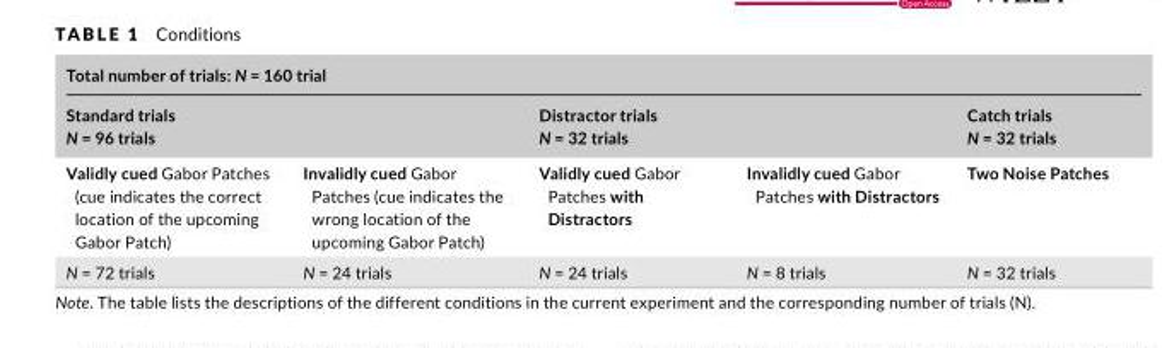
<table><thead><tr><td colspan="5">Total number of trials: N = 160 trial</td></tr><tr><td colspan="2">Standard trials N = 96 trials</td><td colspan="2">Distractor trials N = 32 trials</td><td rowspan="2">Catch trials N = 32 trials Two Noise Patches</td></tr><tr><td>Validly cued Gabor Patches (cue indicates the correct location of the upcoming Gabor Patch)</td><td>Invalidly cued Gabor Patches (cue indicates the wrong location of the upcoming Gabor Patch)</td><td>Validly cued Gabor Patches with Distractors</td><td>Invalidly cued Gabor Patches with Distractors</td></tr></thead><tbody><tr><td>N = 72 trials</td><td>N = 24 trials</td><td>N = 24 trials</td><td>N = 8 trials</td><td>N = 32 trials</td></tr></tbody></table>